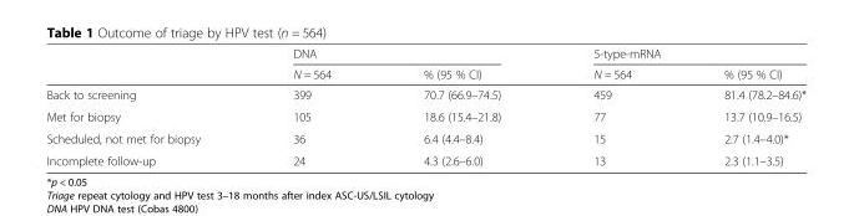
<table><thead><tr><td rowspan="2"></td><td colspan="2">DNA</td><td colspan="2">5-type-mRNA</td></tr><tr><td>N = 564</td><td>% (95 % CI)</td><td>N = 564</td><td>% (95 % CI)</td></tr></thead><tbody><tr><td>Back to screening</td><td>399</td><td>70.7 (66.9–74.5)</td><td>459</td><td>81.4 (78.2–84.6)*</td></tr><tr><td>Met for biopsy</td><td>105</td><td>18.6 (15.4–21.8)</td><td>77</td><td>13.7 (10.9–16.5)</td></tr><tr><td>Scheduled, not met for biopsy</td><td>36</td><td>6.4 (4.4–8.4)</td><td>15</td><td>2.7 (1.4–4.0)*</td></tr><tr><td>Incomplete follow-up</td><td>24</td><td>4.3 (2.6–6.0)</td><td>13</td><td>2.3 (1.1–3.5)</td></tr></tbody></table>